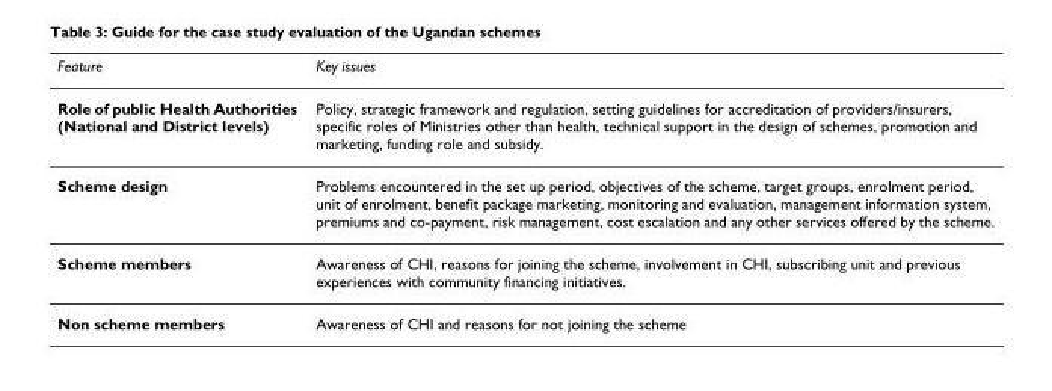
<table><thead><tr><td>Feature</td><td>Key issues</td></tr></thead><tbody><tr><td>Role of public Health Authorities (National and District levels)</td><td>Policy, strategic framework and regulation, setting guidelines for accreditation of providers/insurers, specific roles of Ministries other than health, technical support in the design of schemes, promotion and marketing, funding role and subsidy.</td></tr><tr><td>Scheme design</td><td>Problems encountered in the set up period, objectives of the scheme, target groups, enrolment period, unit of enrolment, benefit package marketing, monitoring and evaluation, management information system, premiums and co-payment, risk management, cost escalation and any other services offered by the scheme.</td></tr><tr><td>Scheme members</td><td>Awareness of CHI, reasons for joining the scheme, involvement in CHI, subscribing unit and previous experiences with community financing initiatives.</td></tr><tr><td>Non scheme members</td><td>Awareness of CHI and reasons for not joining the scheme</td></tr></tbody></table>